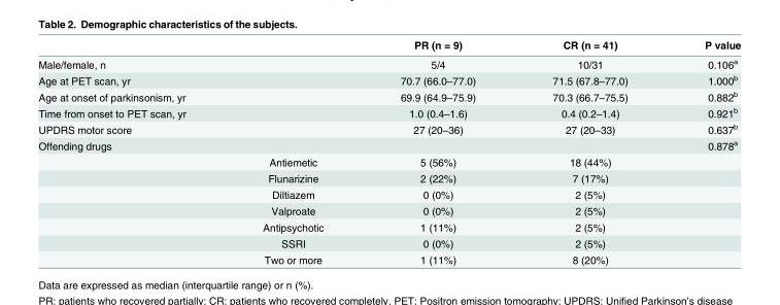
<table><thead><tr><td></td><td></td><td>PR (n = 9)</td><td>CR (n = 41)</td><td>P value</td></tr></thead><tbody><tr><td>Male/female, n</td><td></td><td>5/4</td><td>10/31</td><td>0.106<sup>a</sup></td></tr><tr><td>Age at PET scan, yr</td><td></td><td>70.7 (66.0–77.0)</td><td>71.5 (67.8–77.0)</td><td>1.000<sup>b</sup></td></tr><tr><td>Age at onset of parkinsonism, yr</td><td></td><td>69.9 (64.9–75.9)</td><td>70.3 (66.7–75.5)</td><td>0.882<sup>b</sup></td></tr><tr><td>Time from onset to PET scan, yr</td><td></td><td>1.0 (0.4–1.6)</td><td>0.4 (0.2–1.4)</td><td>0.921<sup>b</sup></td></tr><tr><td>UPDRS motor score</td><td></td><td>27 (20–36)</td><td>27 (20–33)</td><td>0.637<sup>b</sup></td></tr><tr><td rowspan="8">Offending drugs</td><td></td><td></td><td></td><td>0.878<sup>a</sup></td></tr><tr><td>Antiemetic</td><td>5 (56%)</td><td>18 (44%)</td><td></td></tr><tr><td>Flunarizine</td><td>2 (22%)</td><td>7 (17%)</td><td></td></tr><tr><td>Diltiazem</td><td>0 (0%)</td><td>2 (5%)</td><td></td></tr><tr><td>Valproate</td><td>0 (0%)</td><td>2 (5%)</td><td></td></tr><tr><td>Antipsychotic</td><td>1 (11%)</td><td>2 (5%)</td><td></td></tr><tr><td>SSRI</td><td>0 (0%)</td><td>2 (5%)</td><td></td></tr><tr><td>Two or more</td><td>1 (11%)</td><td>8 (20%)</td><td></td></tr></tbody></table>